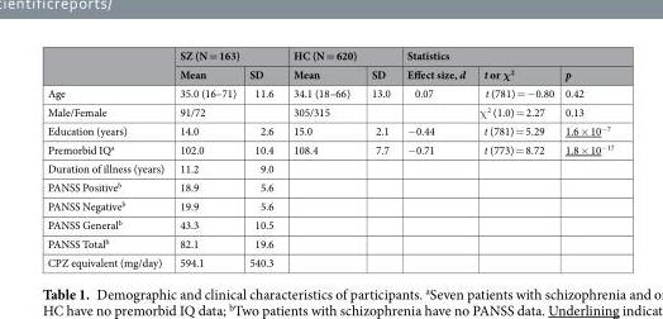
<table><thead><tr><td rowspan="2"></td><td colspan="2">SZ (N = 163)</td><td colspan="2">HC (N = 620)</td><td colspan="3">Statistics</td></tr><tr><td>Mean</td><td>SD</td><td>Mean</td><td>SD</td><td>Effect size, d</td><td>t or χ<sup>2</sup></td><td>p</td></tr></thead><tbody><tr><td>Age</td><td>35.0 (16–71)</td><td>11.6</td><td>34.1 (18–66)</td><td>13.0</td><td>0.07</td><td>t (781) = −0.80</td><td>0.42</td></tr><tr><td>Male/Female</td><td>91/72</td><td></td><td>305/315</td><td></td><td></td><td>χ<sup>2</sup> (1.0) = 2.27</td><td>0.13</td></tr><tr><td>Education (years)</td><td>14.0</td><td>2.6</td><td>15.0</td><td>2.1</td><td>−0.44</td><td>t (781) = 5.29</td><td>1.6 × 10<sup>−7</sup></td></tr><tr><td>Premorbid IQ<sup>a</sup></td><td>102.0</td><td>10.4</td><td>108.4</td><td>7.7</td><td>−0.71</td><td>t (773) = 8.72</td><td>1.8 × 10<sup>−17</sup></td></tr><tr><td>Duration of illness (years)</td><td>11.2</td><td>9.0</td><td></td><td></td><td></td><td></td><td></td></tr><tr><td>PANSS Positive<sup>b</sup></td><td>18.9</td><td>5.6</td><td></td><td></td><td></td><td></td><td></td></tr><tr><td>PANSS Negative<sup>b</sup></td><td>19.9</td><td>5.6</td><td></td><td></td><td></td><td></td><td></td></tr><tr><td>PANSS General<sup>b</sup></td><td>43.3</td><td>10.5</td><td></td><td></td><td></td><td></td><td></td></tr><tr><td>PANSS Total<sup>b</sup></td><td>82.1</td><td>19.6</td><td></td><td></td><td></td><td></td><td></td></tr><tr><td>CPZ equivalent (mg/day)</td><td>594.1</td><td>540.3</td><td></td><td></td><td></td><td></td><td></td></tr></tbody></table>